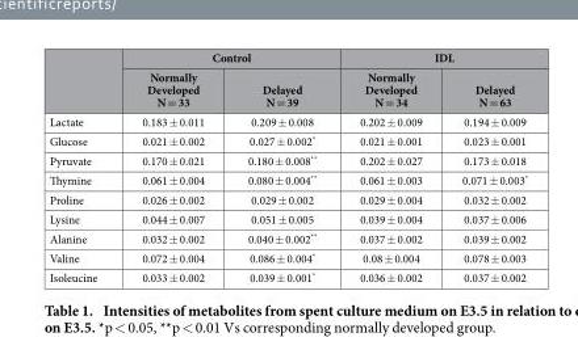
<table><thead><tr><td rowspan="2"></td><td colspan="2">Control</td><td colspan="2">IDL</td></tr><tr><td>Normally Developed N = 33</td><td>Delayed N = 39</td><td>Normally Developed N = 34</td><td>Delayed N = 63</td></tr></thead><tbody><tr><td>Lactate</td><td>0.183 ± 0.011</td><td>0.209 ± 0.008</td><td>0.202 ± 0.009</td><td>0.194 ± 0.009</td></tr><tr><td>Glucose</td><td>0.021 ± 0.002</td><td>0.027 ± 0.002*</td><td>0.021 ± 0.001</td><td>0.023 ± 0.001</td></tr><tr><td>Pyruvate</td><td>0.170 ± 0.021</td><td>0.180 ± 0.008**</td><td>0.202 ± 0.027</td><td>0.173 ± 0.018</td></tr><tr><td>Thymine</td><td>0.061 ± 0.004</td><td>0.080 ± 0.004**</td><td>0.061 ± 0.003</td><td>0.071 ± 0.003*</td></tr><tr><td>Proline</td><td>0.026 ± 0.002</td><td>0.029 ± 0.002</td><td>0.029 ± 0.004</td><td>0.032 ± 0.002</td></tr><tr><td>Lysine</td><td>0.044 ± 0.007</td><td>0.051 ± 0.005</td><td>0.039 ± 0.004</td><td>0.037 ± 0.006</td></tr><tr><td>Alanine</td><td>0.032 ± 0.002</td><td>0.040 ± 0.002**</td><td>0.037 ± 0.002</td><td>0.039 ± 0.002</td></tr><tr><td>Valine</td><td>0.072 ± 0.004</td><td>0.086 ± 0.004*</td><td>0.08 ± 0.004</td><td>0.078 ± 0.003</td></tr><tr><td>Isoleucine</td><td>0.033 ± 0.002</td><td>0.039 ± 0.001*</td><td>0.036 ± 0.002</td><td>0.037 ± 0.002</td></tr></tbody></table>